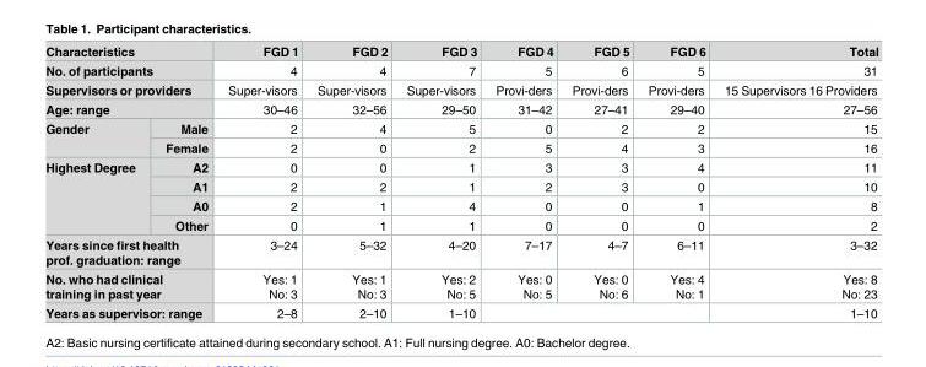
<table><thead><tr><td colspan="2">Characteristics</td><td>FGD 1</td><td>FGD 2</td><td>FGD 3</td><td>FGD 4</td><td>FGD 5</td><td>FGD 6</td><td>Total</td></tr></thead><tbody><tr><td colspan="2">No. of participants</td><td>4</td><td>4</td><td>7</td><td>5</td><td>6</td><td>5</td><td>31</td></tr><tr><td colspan="2">Supervisors or providers</td><td>Super-visors</td><td>Super-visors</td><td>Super-visors</td><td>Provi-ders</td><td>Provi-ders</td><td>Provi-ders</td><td>15 Supervisors 16 Providers</td></tr><tr><td colspan="2">Age: range</td><td>30–46</td><td>32–56</td><td>29–50</td><td>31–42</td><td>27–41</td><td>29–40</td><td>27–56</td></tr><tr><td rowspan="2">Gender</td><td>Male</td><td>2</td><td>4</td><td>5</td><td>0</td><td>2</td><td>2</td><td>15</td></tr><tr><td>Female</td><td>2</td><td>0</td><td>2</td><td>5</td><td>4</td><td>3</td><td>16</td></tr><tr><td rowspan="4">Highest Degree</td><td>A2</td><td>0</td><td>0</td><td>1</td><td>3</td><td>3</td><td>4</td><td>11</td></tr><tr><td>A1</td><td>2</td><td>2</td><td>1</td><td>2</td><td>3</td><td>0</td><td>10</td></tr><tr><td>A0</td><td>2</td><td>1</td><td>4</td><td>0</td><td>0</td><td>1</td><td>8</td></tr><tr><td>Other</td><td>0</td><td>1</td><td>1</td><td>0</td><td>0</td><td>0</td><td>2</td></tr><tr><td colspan="2">Years since first health prof. graduation: range</td><td>3–24</td><td>5–32</td><td>4–20</td><td>7–17</td><td>4–7</td><td>6–11</td><td>3–32</td></tr><tr><td colspan="2">No. who had clinical training in past year</td><td>Yes: 1 No: 3</td><td>Yes: 1 No: 3</td><td>Yes: 2 No: 5</td><td>Yes: 0 No: 5</td><td>Yes: 0 No: 6</td><td>Yes: 4 No: 1</td><td>Yes: 8 No: 23</td></tr><tr><td colspan="2">Years as supervisor: range</td><td>2–8</td><td>2–10</td><td>1–10</td><td colspan="3"></td><td>1–10</td></tr></tbody></table>